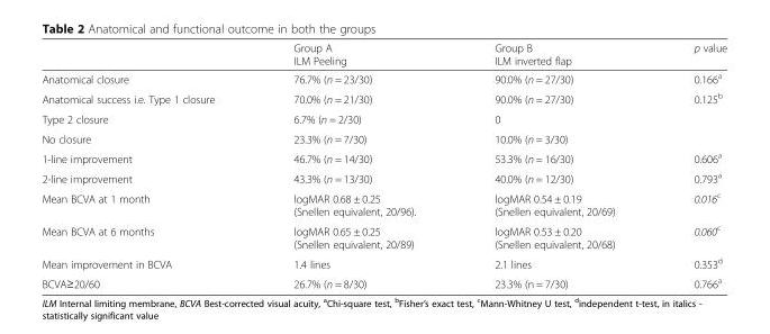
<table><thead><tr><td></td><td>Group A ILM Peeling</td><td>Group B ILM inverted flap</td><td>p value</td></tr></thead><tbody><tr><td>Anatomical closure</td><td>76.7% (n = 23/30)</td><td>90.0% (n = 27/30)</td><td>0.166<sup>a</sup></td></tr><tr><td>Anatomical success i.e. Type 1 closure</td><td>70.0% (n = 21/30)</td><td>90.0% (n = 27/30)</td><td rowspan="3">0.125<sup>b</sup></td></tr><tr><td>Type 2 closure</td><td>6.7% (n = 2/30)</td><td>0</td></tr><tr><td>No closure</td><td>23.3% (n = 7/30)</td><td>10.0% (n = 3/30)</td></tr><tr><td>1-line improvement</td><td>46.7% (n = 14/30)</td><td>53.3% (n = 16/30)</td><td>0.606<sup>a</sup></td></tr><tr><td>2-line improvement</td><td>43.3% (n = 13/30)</td><td>40.0% (n = 12/30)</td><td>0.793<sup>a</sup></td></tr><tr><td>Mean BCVA at 1 month</td><td>logMAR 0.68 ± 0.25 (Snellen equivalent, 20/96).</td><td>logMAR 0.54 ± 0.19 (Snellen equivalent, 20/69)</td><td>0.016<sup>c</sup></td></tr><tr><td>Mean BCVA at 6 months</td><td>logMAR 0.65 ± 0.25 (Snellen equivalent, 20/89)</td><td>logMAR 0.53 ± 0.20 (Snellen equivalent, 20/68)</td><td>0.060<sup>c</sup></td></tr><tr><td>Mean improvement in BCVA</td><td>1.4 lines</td><td>2.1 lines</td><td>0.353<sup>d</sup></td></tr><tr><td>BCVA≥20/60</td><td>26.7% (n = 8/30)</td><td>23.3% (n = 7/30)</td><td>0.766<sup>a</sup></td></tr></tbody></table>